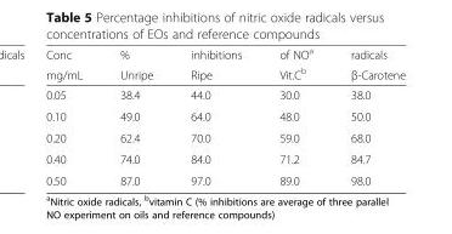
<table><thead><tr><td rowspan="2">Conc mg/mL</td><td rowspan="2">% Unripe</td><td rowspan="2">inhibitions Ripe</td><td rowspan="2">of NO<sup>a</sup> Vit.C<sup>b</sup></td><td rowspan="2">radicals β-Carotene</td></tr><tr></tr></thead><tbody><tr><td>0.05</td><td>38.4</td><td>44.0</td><td>30.0</td><td>38.0</td></tr><tr><td>0.10</td><td>49.0</td><td>64.0</td><td>48.0</td><td>50.0</td></tr><tr><td>0.20</td><td>62.4</td><td>70.0</td><td>59.0</td><td>68.0</td></tr><tr><td>0.40</td><td>74.0</td><td>84.0</td><td>71.2</td><td>84.7</td></tr><tr><td>0.50</td><td>87.0</td><td>97.0</td><td>89.0</td><td>98.0</td></tr></tbody></table>